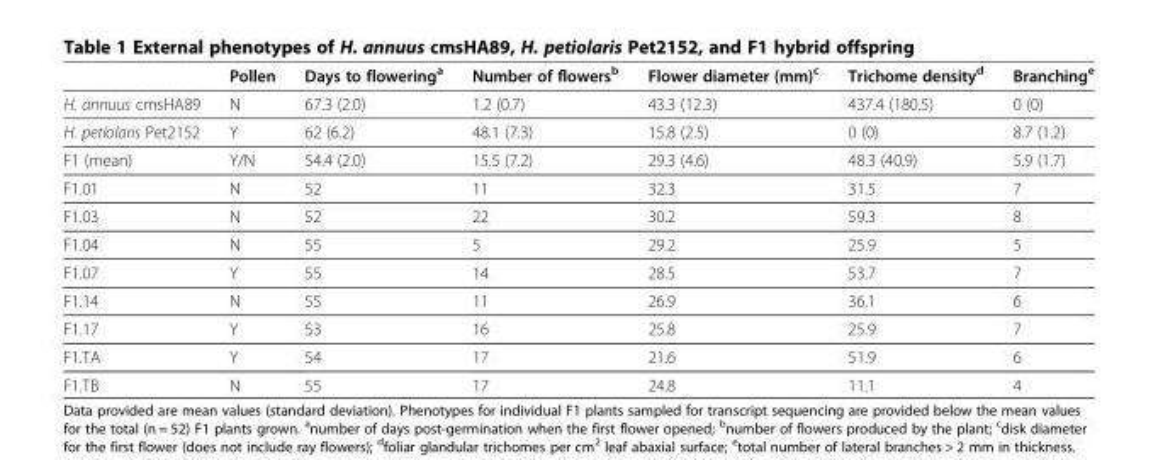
<table><thead><tr><td></td><td>Pollen</td><td>Days to flowering<sup>a</sup></td><td>Number of flowers<sup>b</sup></td><td>Flower diameter (mm)<sup>c</sup></td><td>Trichome density<sup>d</sup></td><td>Branching<sup>e</sup></td></tr></thead><tbody><tr><td>H. annuus cmsHA89</td><td>N</td><td>67.3 (2.0)</td><td>1.2 (0.7)</td><td>43.3 (12.3)</td><td>437.4 (180.5)</td><td>0 (0)</td></tr><tr><td>H. petiolaris Pet2152</td><td>Y</td><td>62 (6.2)</td><td>48.1 (7.3)</td><td>15.8 (2.5)</td><td>0 (0)</td><td>8.7 (1.2)</td></tr><tr><td>F1 (mean)</td><td>Y/N</td><td>54.4 (2.0)</td><td>15.5 (7.2)</td><td>29.3 (4.6)</td><td>48.3 (40.9)</td><td>5.9 (1.7)</td></tr><tr><td>F1.01</td><td>N</td><td>52</td><td>11</td><td>32.3</td><td>31.5</td><td>7</td></tr><tr><td>F1.03</td><td>N</td><td>52</td><td>22</td><td>30.2</td><td>59.3</td><td>8</td></tr><tr><td>F1.04</td><td>N</td><td>55</td><td>5</td><td>29.2</td><td>25.9</td><td>5</td></tr><tr><td>F1.07</td><td>Y</td><td>55</td><td>14</td><td>28.5</td><td>53.7</td><td>7</td></tr><tr><td>F1.14</td><td>N</td><td>55</td><td>11</td><td>26.9</td><td>36.1</td><td>6</td></tr><tr><td>F1.17</td><td>Y</td><td>53</td><td>16</td><td>25.8</td><td>25.9</td><td>7</td></tr><tr><td>F1.TA</td><td>Y</td><td>54</td><td>17</td><td>21.6</td><td>51.9</td><td>6</td></tr><tr><td>F1.TB</td><td>N</td><td>55</td><td>17</td><td>24.8</td><td>11.1</td><td>4</td></tr></tbody></table>